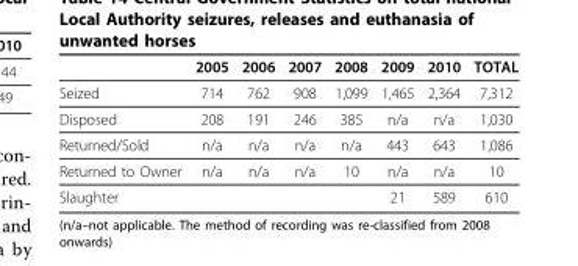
<table><thead><tr><td></td><td>2005</td><td>2006</td><td>2007</td><td>2008</td><td>2009</td><td>2010</td><td>TOTAL</td></tr></thead><tbody><tr><td>Seized</td><td>714</td><td>762</td><td>908</td><td>1,099</td><td>1,465</td><td>2,364</td><td>7,312</td></tr><tr><td>Disposed</td><td>208</td><td>191</td><td>246</td><td>385</td><td>n/a</td><td>n/a</td><td>1,030</td></tr><tr><td>Returned/Sold</td><td>n/a</td><td>n/a</td><td>n/a</td><td>n/a</td><td>443</td><td>643</td><td>1,086</td></tr><tr><td>Returned to Owner</td><td>n/a</td><td>n/a</td><td>n/a</td><td>10</td><td>n/a</td><td>n/a</td><td>10</td></tr><tr><td>Slaughter</td><td></td><td></td><td></td><td></td><td>21</td><td>589</td><td>610</td></tr></tbody></table>